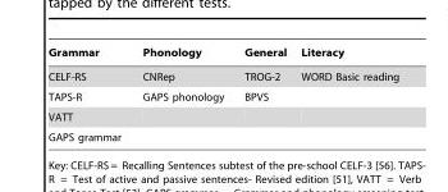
<table><thead><tr><td>Grammar</td><td>Phonology</td><td>General</td><td>Literacy</td></tr></thead><tbody><tr><td>CELF-RS</td><td>CNRep</td><td>TROG-2</td><td>WORD Basic reading</td></tr><tr><td>TAPS-R</td><td>GAPS phonology</td><td>BPVS</td><td></td></tr><tr><td colspan="4">VATT</td></tr><tr><td>GAPS grammar</td><td></td><td></td><td></td></tr></tbody></table>